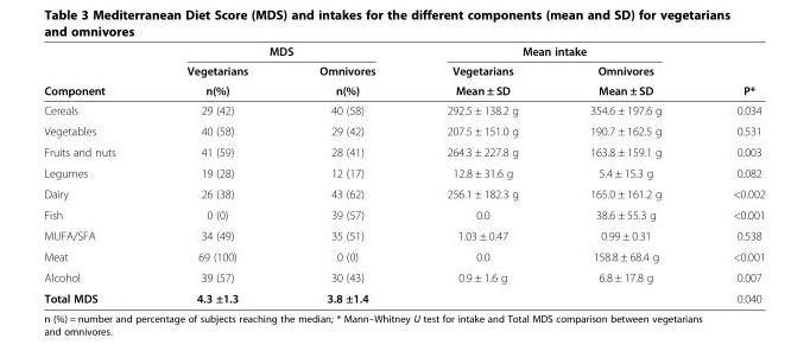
<table><thead><tr><td rowspan="3">Component</td><td colspan="2">MDS</td><td colspan="2">Mean intake</td><td rowspan="3">P*</td></tr><tr><td rowspan="2">Vegetarians n(%)</td><td rowspan="2">Omnivores n(%)</td><td rowspan="2">Vegetarians Mean ± SD</td><td rowspan="2">Omnivores Mean ± SD</td></tr><tr></tr></thead><tbody><tr><td>Cereals</td><td>29 (42)</td><td>40 (58)</td><td>292.5 ± 138.2 g</td><td>354.6 ± 197.6 g</td><td>0.034</td></tr><tr><td>Vegetables</td><td>40 (58)</td><td>29 (42)</td><td>207.5 ± 151.0 g</td><td>190.7 ± 162.5 g</td><td>0.531</td></tr><tr><td>Fruits and nuts</td><td>41 (59)</td><td>28 (41)</td><td>264.3 ± 227.8 g</td><td>163.8 ± 159.1 g</td><td>0.003</td></tr><tr><td>Legumes</td><td>19 (28)</td><td>12 (17)</td><td>12.8 ± 31.6 g</td><td>5.4 ± 15.3 g</td><td>0.082</td></tr><tr><td>Dairy</td><td>26 (38)</td><td>43 (62)</td><td>256.1 ± 182.3 g</td><td>165.0 ± 161.2 g</td><td>&lt;0.002</td></tr><tr><td>Fish</td><td>0 (0)</td><td>39 (57)</td><td>0.0</td><td>38.6 ± 55.3 g</td><td>&lt;0.001</td></tr><tr><td>MUFA/SFA</td><td>34 (49)</td><td>35 (51)</td><td>1.03 ± 0.47</td><td>0.99 ± 0.31</td><td>0.538</td></tr><tr><td>Meat</td><td>69 (100)</td><td>0 (0)</td><td>0.0</td><td>158.8 ± 68.4 g</td><td>&lt;0.001</td></tr><tr><td>Alcohol</td><td>39 (57)</td><td>30 (43)</td><td>0.9 ± 1.6 g</td><td>6.8 ± 17.8 g</td><td>0.007</td></tr><tr><td>Total MDS</td><td>4.3 ±1.3</td><td>3.8 ±1.4</td><td></td><td></td><td>0.040</td></tr></tbody></table>